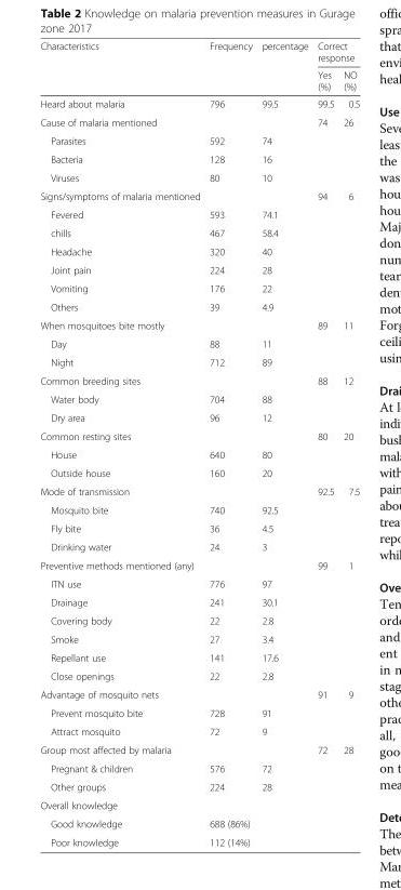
<table><thead><tr><td rowspan="2">Characteristics</td><td rowspan="2">Frequency</td><td rowspan="2">percentage</td><td colspan="2">Correct response</td></tr><tr><td>Yes (%)</td><td>NO (%)</td></tr></thead><tbody><tr><td>Heard about malaria</td><td>796</td><td>99.5</td><td>99.5</td><td>0.5</td></tr><tr><td>Cause of malaria mentioned</td><td></td><td></td><td>74</td><td>26</td></tr><tr><td>Parasites</td><td>592</td><td>74</td><td></td><td></td></tr><tr><td>Bacteria</td><td>128</td><td>16</td><td></td><td></td></tr><tr><td>Viruses</td><td>80</td><td>10</td><td></td><td></td></tr><tr><td>Signs/symptoms of malaria mentioned</td><td></td><td></td><td>94</td><td>6</td></tr><tr><td>Fevered</td><td>593</td><td>74.1</td><td></td><td></td></tr><tr><td>chills</td><td>467</td><td>58.4</td><td></td><td></td></tr><tr><td>Headache</td><td>320</td><td>40</td><td></td><td></td></tr><tr><td>Joint pain</td><td>224</td><td>28</td><td></td><td></td></tr><tr><td>Vomiting</td><td>176</td><td>22</td><td></td><td></td></tr><tr><td>Others</td><td>39</td><td>4.9</td><td></td><td></td></tr><tr><td>When mosquitoes bite mostly</td><td></td><td></td><td>89</td><td>11</td></tr><tr><td>Day</td><td>88</td><td>11</td><td></td><td></td></tr><tr><td>Night</td><td>712</td><td>89</td><td></td><td></td></tr><tr><td>Common breeding sites</td><td></td><td></td><td>88</td><td>12</td></tr><tr><td>Water body</td><td>704</td><td>88</td><td></td><td></td></tr><tr><td>Dry area</td><td>96</td><td>12</td><td></td><td></td></tr><tr><td>Common resting sites</td><td></td><td></td><td>80</td><td>20</td></tr><tr><td>House</td><td>640</td><td>80</td><td></td><td></td></tr><tr><td>Outside house</td><td>160</td><td>20</td><td></td><td></td></tr><tr><td>Mode of transmission</td><td></td><td></td><td>92.5</td><td>7.5</td></tr><tr><td>Mosquito bite</td><td>740</td><td>92.5</td><td></td><td></td></tr><tr><td>Fly bite</td><td>36</td><td>4.5</td><td></td><td></td></tr><tr><td>Drinking water</td><td>24</td><td>3</td><td></td><td></td></tr><tr><td>Preventive methods mentioned (any)</td><td></td><td></td><td>99</td><td>1</td></tr><tr><td>ITN use</td><td>776</td><td>97</td><td></td><td></td></tr><tr><td>Drainage</td><td>241</td><td>30.1</td><td></td><td></td></tr><tr><td>Covering body</td><td>22</td><td>2.8</td><td></td><td></td></tr><tr><td>Smoke</td><td>27</td><td>3.4</td><td></td><td></td></tr><tr><td>Repellant use</td><td>141</td><td>17.6</td><td></td><td></td></tr><tr><td>Close openings</td><td>22</td><td>2.8</td><td></td><td></td></tr><tr><td>Advantage of mosquito nets</td><td></td><td></td><td>91</td><td>9</td></tr><tr><td>Prevent mosquito bite</td><td>728</td><td>91</td><td></td><td></td></tr><tr><td>Attract mosquito</td><td>72</td><td>9</td><td></td><td></td></tr><tr><td>Group most affected by malaria</td><td></td><td></td><td>72</td><td>28</td></tr><tr><td>Pregnant &amp; children</td><td>576</td><td>72</td><td></td><td></td></tr><tr><td>Other groups</td><td>224</td><td>28</td><td></td><td></td></tr><tr><td colspan="5">Overall knowledge</td></tr><tr><td>Good knowledge</td><td colspan="4">688 (86%)</td></tr><tr><td>Poor knowledge</td><td colspan="4">112 (14%)</td></tr></tbody></table>